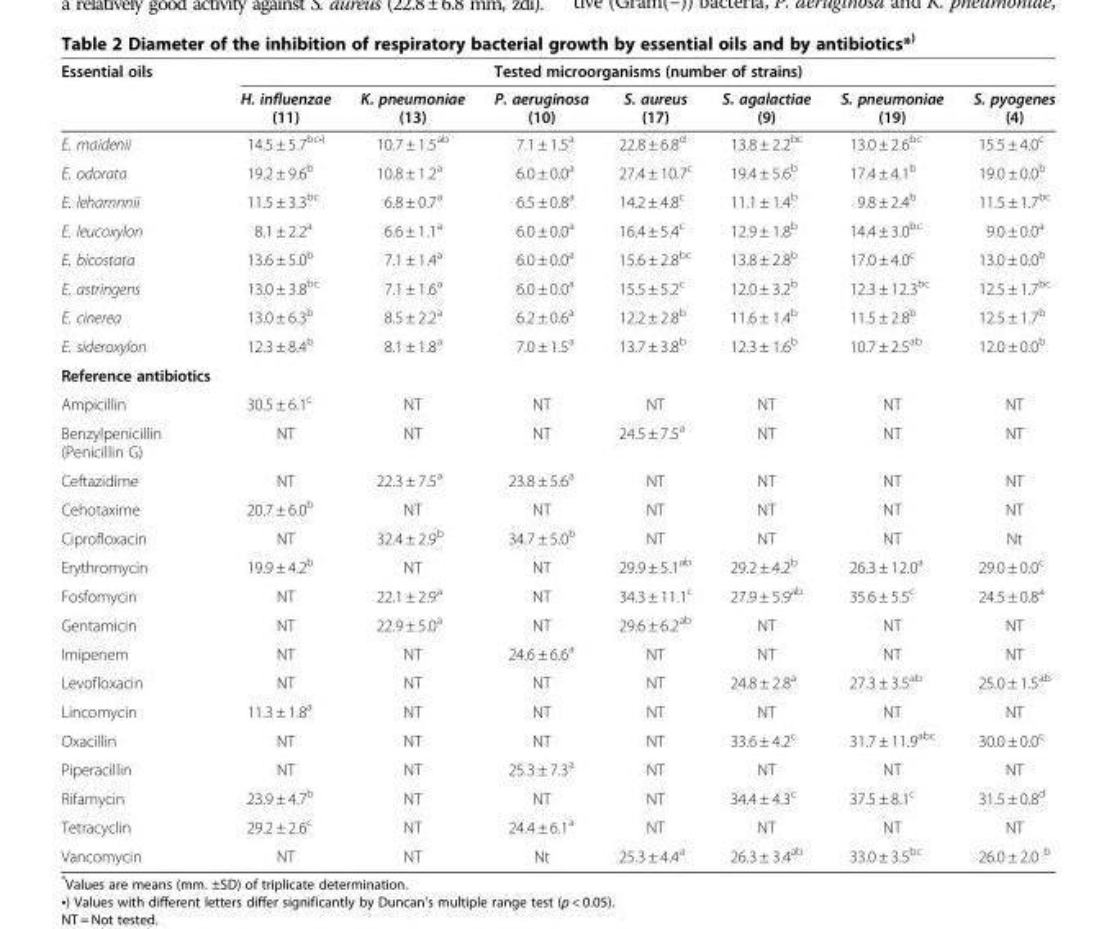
<table><thead><tr><td rowspan="2">Essential oils</td><td colspan="7">Tested microorganisms (number of strains)</td></tr><tr><td>H. influenzae (11)</td><td>K. pneumoniae (13)</td><td>P. aeruginosa (10)</td><td>S. aureus (17)</td><td>S. agalactiae (9)</td><td>S. pneumoniae (19)</td><td>S. pyogenes (4)</td></tr></thead><tbody><tr><td>E. maidenii</td><td>14.5 ± 5.7bc•)</td><td>10.7 ± 1.5<sup>ab</sup></td><td>7.1 ± 1.5<sup>a</sup></td><td>22.8 ± 6.8<sup>d</sup></td><td>13.8 ± 2.2<sup>bc</sup></td><td>13.0 ± 2.6<sup>bc</sup></td><td>15.5 ± 4.0<sup>c</sup></td></tr><tr><td>E. odorata</td><td>19.2 ± 9.6<sup>b</sup></td><td>10.8 ± 1.2<sup>a</sup></td><td>6.0 ± 0.0<sup>a</sup></td><td>27.4 ± 10.7<sup>c</sup></td><td>19.4 ± 5.6<sup>b</sup></td><td>17.4 ± 4.1<sup>b</sup></td><td>19.0 ± 0.0<sup>b</sup></td></tr><tr><td>E. lehamnnii</td><td>11.5 ± 3.3<sup>bc</sup></td><td>6.8 ± 0.7<sup>a</sup></td><td>6.5 ± 0.8<sup>a</sup></td><td>14.2 ± 4.8<sup>c</sup></td><td>11.1 ± 1.4<sup>b</sup></td><td>9.8 ± 2.4<sup>b</sup></td><td>11.5 ± 1.7<sup>bc</sup></td></tr><tr><td>E. leucoxylon</td><td>8.1 ± 2.2<sup>a</sup></td><td>6.6 ± 1.1<sup>a</sup></td><td>6.0 ± 0.0<sup>a</sup></td><td>16.4 ± 5.4<sup>c</sup></td><td>12.9 ± 1.8<sup>b</sup></td><td>14.4 ± 3.0<sup>bc</sup></td><td>9.0 ± 0.0<sup>a</sup></td></tr><tr><td>E. bicostata</td><td>13.6 ± 5.0<sup>b</sup></td><td>7.1 ± 1.4<sup>a</sup></td><td>6.0 ± 0.0<sup>a</sup></td><td>15.6 ± 2.8<sup>bc</sup></td><td>13.8 ± 2.8<sup>b</sup></td><td>17.0 ± 4.0<sup>c</sup></td><td>13.0 ± 0.0<sup>b</sup></td></tr><tr><td>E. astringens</td><td>13.0 ± 3.8<sup>bc</sup></td><td>7.1 ± 1.6<sup>a</sup></td><td>6.0 ± 0.0<sup>a</sup></td><td>15.5 ± 5.2<sup>c</sup></td><td>12.0 ± 3.2<sup>b</sup></td><td>12.3 ± 12.3<sup>bc</sup></td><td>12.5 ± 1.7<sup>bc</sup></td></tr><tr><td>E. cinerea</td><td>13.0 ± 6.3<sup>b</sup></td><td>8.5 ± 2.2<sup>a</sup></td><td>6.2 ± 0.6<sup>a</sup></td><td>12.2 ± 2.8<sup>b</sup></td><td>11.6 ± 1.4<sup>b</sup></td><td>11.5 ± 2.8<sup>b</sup></td><td>12.5 ± 1.7<sup>b</sup></td></tr><tr><td>E. sideroxylon</td><td>12.3 ± 8.4<sup>b</sup></td><td>8.1 ± 1.8<sup>a</sup></td><td>7.0 ± 1.5<sup>a</sup></td><td>13.7 ± 3.8<sup>b</sup></td><td>12.3 ± 1.6<sup>b</sup></td><td>10.7 ± 2.5<sup>ab</sup></td><td>12.0 ± 0.0<sup>b</sup></td></tr><tr><td colspan="8">Reference antibiotics</td></tr><tr><td>Ampicillin</td><td>30.5 ± 6.1<sup>c</sup></td><td>NT</td><td>NT</td><td>NT</td><td>NT</td><td>NT</td><td>NT</td></tr><tr><td>Benzylpenicillin (Penicillin G)</td><td>NT</td><td>NT</td><td>NT</td><td>24.5 ± 7.5<sup>a</sup></td><td>NT</td><td>NT</td><td>NT</td></tr><tr><td>Ceftazidime</td><td>NT</td><td>22.3 ± 7.5<sup>a</sup></td><td>23.8 ± 5.6<sup>a</sup></td><td>NT</td><td>NT</td><td>NT</td><td>NT</td></tr><tr><td>Cehotaxime</td><td>20.7 ± 6.0<sup>b</sup></td><td>NT</td><td>NT</td><td>NT</td><td>NT</td><td>NT</td><td>NT</td></tr><tr><td>Ciprofloxacin</td><td>NT</td><td>32.4 ± 2.9<sup>b</sup></td><td>34.7 ± 5.0<sup>b</sup></td><td>NT</td><td>NT</td><td>NT</td><td>Nt</td></tr><tr><td>Erythromycin</td><td>19.9 ± 4.2<sup>b</sup></td><td>NT</td><td>NT</td><td>29.9 ± 5.1<sup>ab</sup></td><td>29.2 ± 4.2<sup>b</sup></td><td>26.3 ± 12.0<sup>a</sup></td><td>29.0 ± 0.0<sup>c</sup></td></tr><tr><td>Fosfomycin</td><td>NT</td><td>22.1 ± 2.9<sup>a</sup></td><td>NT</td><td>34.3 ± 11.1<sup>c</sup></td><td>27.9 ± 5.9<sup>ab</sup></td><td>35.6 ± 5.5<sup>c</sup></td><td>24.5 ± 0.8<sup>a</sup></td></tr><tr><td>Gentamicin</td><td>NT</td><td>22.9 ± 5.0<sup>a</sup></td><td>NT</td><td>29.6 ± 6.2<sup>ab</sup></td><td>NT</td><td>NT</td><td>NT</td></tr><tr><td>Imipenem</td><td>NT</td><td>NT</td><td>24.6 ± 6.6<sup>a</sup></td><td>NT</td><td>NT</td><td>NT</td><td>NT</td></tr><tr><td>Levofloxacin</td><td>NT</td><td>NT</td><td>NT</td><td>NT</td><td>24.8 ± 2.8<sup>a</sup></td><td>27.3 ± 3.5<sup>ab</sup></td><td>25.0 ± 1.5<sup>ab</sup></td></tr><tr><td>Lincomycin</td><td>11.3 ± 1.8<sup>a</sup></td><td>NT</td><td>NT</td><td>NT</td><td>NT</td><td>NT</td><td>NT</td></tr><tr><td>Oxacillin</td><td>NT</td><td>NT</td><td>NT</td><td>NT</td><td>33.6 ± 4.2<sup>c</sup></td><td>31.7 ± 11.9<sup>abc</sup></td><td>30.0 ± 0.0<sup>c</sup></td></tr><tr><td>Piperacillin</td><td>NT</td><td>NT</td><td>25.3 ± 7.3<sup>a</sup></td><td>NT</td><td>NT</td><td>NT</td><td>NT</td></tr><tr><td>Rifamycin</td><td>23.9 ± 4.7<sup>b</sup></td><td>NT</td><td>NT</td><td>NT</td><td>34.4 ± 4.3<sup>c</sup></td><td>37.5 ± 8.1<sup>c</sup></td><td>31.5 ± 0.8<sup>d</sup></td></tr><tr><td>Tetracyclin</td><td>29.2 ± 2.6<sup>c</sup></td><td>NT</td><td>24.4 ± 6.1<sup>a</sup></td><td>NT</td><td>NT</td><td>NT</td><td>NT</td></tr><tr><td>Vancomycin</td><td>NT</td><td>NT</td><td>Nt</td><td>25.3 ± 4.4<sup>a</sup></td><td>26.3 ± 3.4<sup>ab</sup></td><td>33.0 ± 3.5<sup>bc</sup></td><td>26.0 ± 2.0 <sup>b</sup></td></tr></tbody></table>